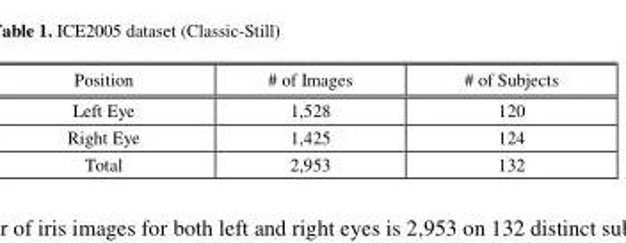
<table><thead><tr><td>Position</td><td># of Images</td><td># of Subjects</td></tr></thead><tbody><tr><td>Left Eye</td><td>1,528</td><td>120</td></tr><tr><td>Right Eye</td><td>1,425</td><td>124</td></tr><tr><td>Total</td><td>2,953</td><td>132</td></tr></tbody></table>